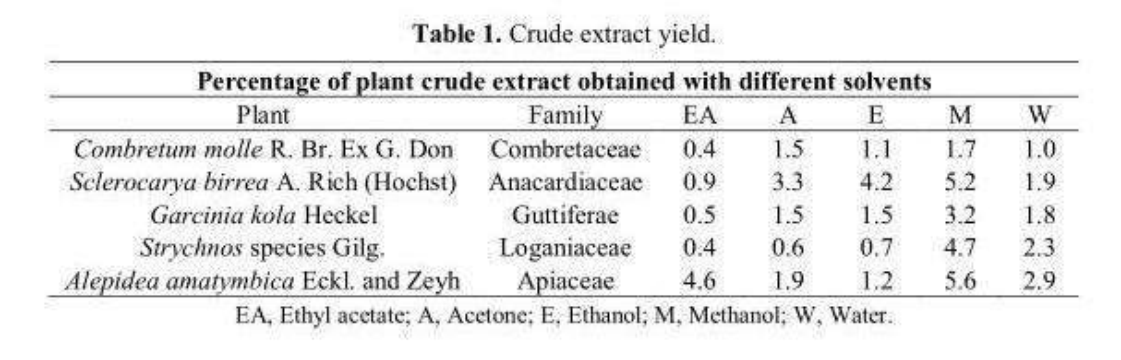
<table><thead><tr><td colspan="7">Percentage of plant crude extract obtained with different solvents</td></tr><tr><td>Plant</td><td>Family</td><td>EA</td><td>A</td><td>E</td><td>M</td><td>W</td></tr></thead><tbody><tr><td>Combretum molle R. Br. Ex G. Don</td><td>Combretaceae</td><td>0.4</td><td>1.5</td><td>1.1</td><td>1.7</td><td>1.0</td></tr><tr><td>Sclerocarya birrea A. Rich (Hochst)</td><td>Anacardiaceae</td><td>0.9</td><td>3.3</td><td>4.2</td><td>5.2</td><td>1.9</td></tr><tr><td>Garcinia kola Heckel</td><td>Guttiferae</td><td>0.5</td><td>1.5</td><td>1.5</td><td>3.2</td><td>1.8</td></tr><tr><td>Strychnos species Gilg.</td><td>Loganiaceae</td><td>0.4</td><td>0.6</td><td>0.7</td><td>4.7</td><td>2.3</td></tr><tr><td>Alepidea amatymbica Eckl. and Zeyh</td><td>Apiaceae</td><td>4.6</td><td>1.9</td><td>1.2</td><td>5.6</td><td>2.9</td></tr></tbody></table>